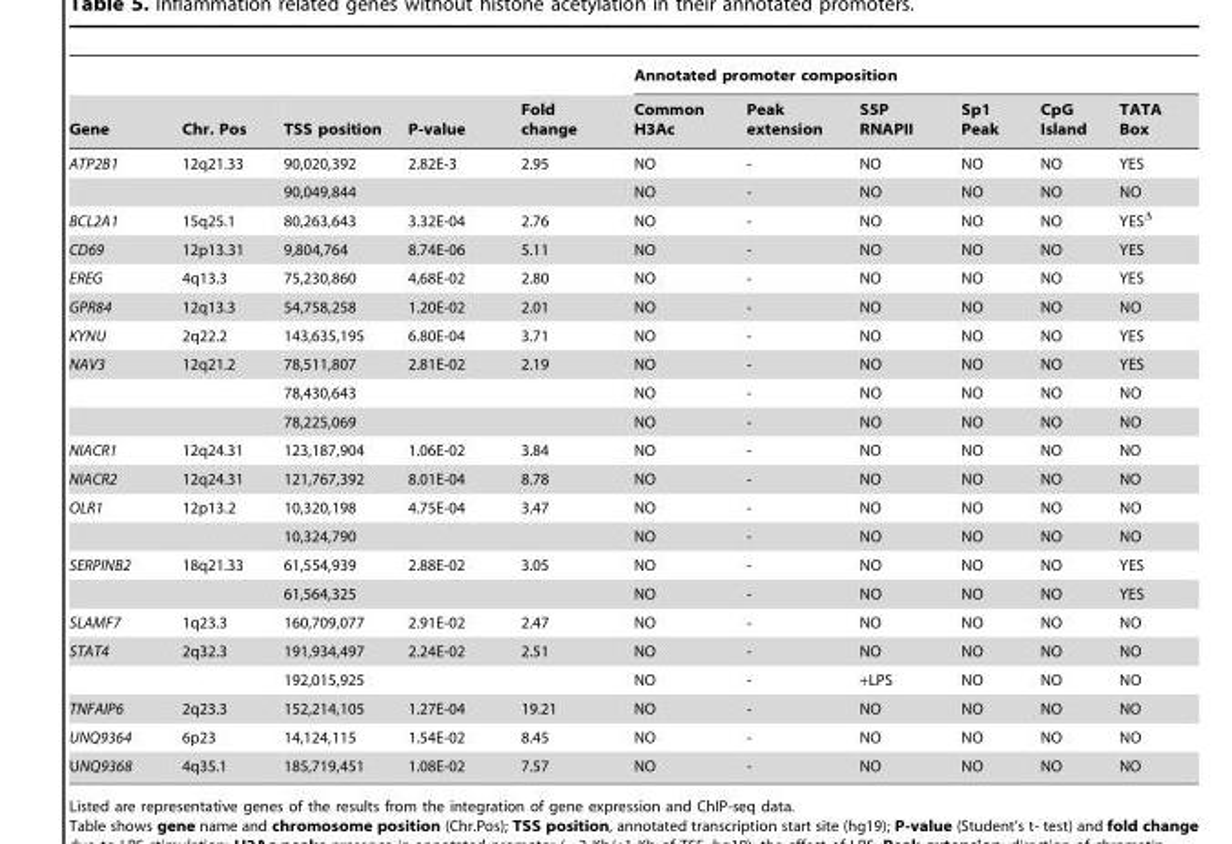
<table><thead><tr><td rowspan="2">Gene</td><td rowspan="2">Chr. Pos</td><td rowspan="2">TSS position</td><td rowspan="2">P-value</td><td rowspan="2">Fold change</td><td colspan="6">Annotated promoter composition</td></tr><tr><td>Common H3Ac</td><td>Peak extension</td><td>S5P RNAPII</td><td>Sp1 Peak</td><td>CpG Island</td><td>TATA Box</td></tr></thead><tbody><tr><td rowspan="2">ATP2B1</td><td>12q21.33</td><td>90,020,392</td><td>2.82E-3</td><td>2.95</td><td>NO</td><td>-</td><td>NO</td><td>NO</td><td>NO</td><td>YES</td></tr><tr><td></td><td>90,049,844</td><td></td><td></td><td>NO</td><td>-</td><td>NO</td><td>NO</td><td>NO</td><td>NO</td></tr><tr><td>BCL2A1</td><td>15q25.1</td><td>80,263,643</td><td>3.32E-04</td><td>2.76</td><td>NO</td><td>-</td><td>NO</td><td>NO</td><td>NO</td><td>YES<sup>Δ</sup></td></tr><tr><td>CD69</td><td>12p13.31</td><td>9,804,764</td><td>8.74E-06</td><td>5.11</td><td>NO</td><td>-</td><td>NO</td><td>NO</td><td>NO</td><td>YES</td></tr><tr><td>EREG</td><td>4q13.3</td><td>75,230,860</td><td>4,68E-02</td><td>2.80</td><td>NO</td><td>-</td><td>NO</td><td>NO</td><td>NO</td><td>YES</td></tr><tr><td>GPR84</td><td>12q13.3</td><td>54,758,258</td><td>1.20E-02</td><td>2.01</td><td>NO</td><td>-</td><td>NO</td><td>NO</td><td>NO</td><td>NO</td></tr><tr><td>KYNU</td><td>2q22.2</td><td>143,635,195</td><td>6.80E-04</td><td>3.71</td><td>NO</td><td>-</td><td>NO</td><td>NO</td><td>NO</td><td>YES</td></tr><tr><td rowspan="3">NAV3</td><td>12q21.2</td><td>78,511,807</td><td>2.81E-02</td><td>2.19</td><td>NO</td><td>-</td><td>NO</td><td>NO</td><td>NO</td><td>YES</td></tr><tr><td></td><td>78,430,643</td><td></td><td></td><td>NO</td><td>-</td><td>NO</td><td>NO</td><td>NO</td><td>NO</td></tr><tr><td></td><td>78,225,069</td><td></td><td></td><td>NO</td><td>-</td><td>NO</td><td>NO</td><td>NO</td><td>NO</td></tr><tr><td>NIACR1</td><td>12q24.31</td><td>123,187,904</td><td>1.06E-02</td><td>3.84</td><td>NO</td><td>-</td><td>NO</td><td>NO</td><td>NO</td><td>NO</td></tr><tr><td>NIACR2</td><td>12q24.31</td><td>121,767,392</td><td>8.01E-04</td><td>8.78</td><td>NO</td><td>-</td><td>NO</td><td>NO</td><td>NO</td><td>NO</td></tr><tr><td rowspan="2">OLR1</td><td>12p13.2</td><td>10,320,198</td><td>4.75E-04</td><td>3.47</td><td>NO</td><td>-</td><td>NO</td><td>NO</td><td>NO</td><td>NO</td></tr><tr><td></td><td>10,324,790</td><td></td><td></td><td>NO</td><td>-</td><td>NO</td><td>NO</td><td>NO</td><td>NO</td></tr><tr><td rowspan="2">SERPINB2</td><td>18q21.33</td><td>61,554,939</td><td>2.88E-02</td><td>3.05</td><td>NO</td><td>-</td><td>NO</td><td>NO</td><td>NO</td><td>YES</td></tr><tr><td></td><td>61,564,325</td><td></td><td></td><td>NO</td><td>-</td><td>NO</td><td>NO</td><td>NO</td><td>YES</td></tr><tr><td>SLAMF7</td><td>1q23.3</td><td>160,709,077</td><td>2.91E-02</td><td>2.47</td><td>NO</td><td>-</td><td>NO</td><td>NO</td><td>NO</td><td>NO</td></tr><tr><td rowspan="2">STAT4</td><td>2q32.3</td><td>191,934,497</td><td>2.24E-02</td><td>2.51</td><td>NO</td><td>-</td><td>NO</td><td>NO</td><td>NO</td><td>NO</td></tr><tr><td></td><td>192,015,925</td><td></td><td></td><td>NO</td><td>-</td><td>+LPS</td><td>NO</td><td>NO</td><td>NO</td></tr><tr><td>TNFAIP6</td><td>2q23.3</td><td>152,214,105</td><td>1.27E-04</td><td>19.21</td><td>NO</td><td>-</td><td>NO</td><td>NO</td><td>NO</td><td>NO</td></tr><tr><td>UNQ9364</td><td>6p23</td><td>14,124,115</td><td>1.54E-02</td><td>8.45</td><td>NO</td><td>-</td><td>NO</td><td>NO</td><td>NO</td><td>NO</td></tr><tr><td>UNQ9368</td><td>4q35.1</td><td>185,719,451</td><td>1.08E-02</td><td>7.57</td><td>NO</td><td>-</td><td>NO</td><td>NO</td><td>NO</td><td>NO</td></tr></tbody></table>